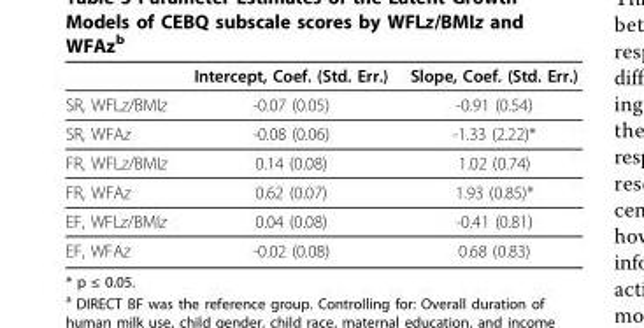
<table><thead><tr><td></td><td>Intercept, Coef. (Std. Err.)</td><td>Slope, Coef. (Std. Err.)</td></tr></thead><tbody><tr><td>SR, WFLz/BMIz</td><td>-0.07 (0.05)</td><td>-0.91 (0.54)</td></tr><tr><td>SR, WFAz</td><td>-0.08 (0.06)</td><td>-1.33 (2.22)*</td></tr><tr><td>FR, WFLz/BMIz</td><td>0.14 (0.08)</td><td>1.02 (0.74)</td></tr><tr><td>FR, WFAz</td><td>0.62 (0.07)</td><td>1.93 (0.85)*</td></tr><tr><td>EF, WFLz/BMIz</td><td>0.04 (0.08)</td><td>-0.41 (0.81)</td></tr><tr><td>EF, WFAz</td><td>-0.02 (0.08)</td><td>0.68 (0.83)</td></tr></tbody></table>